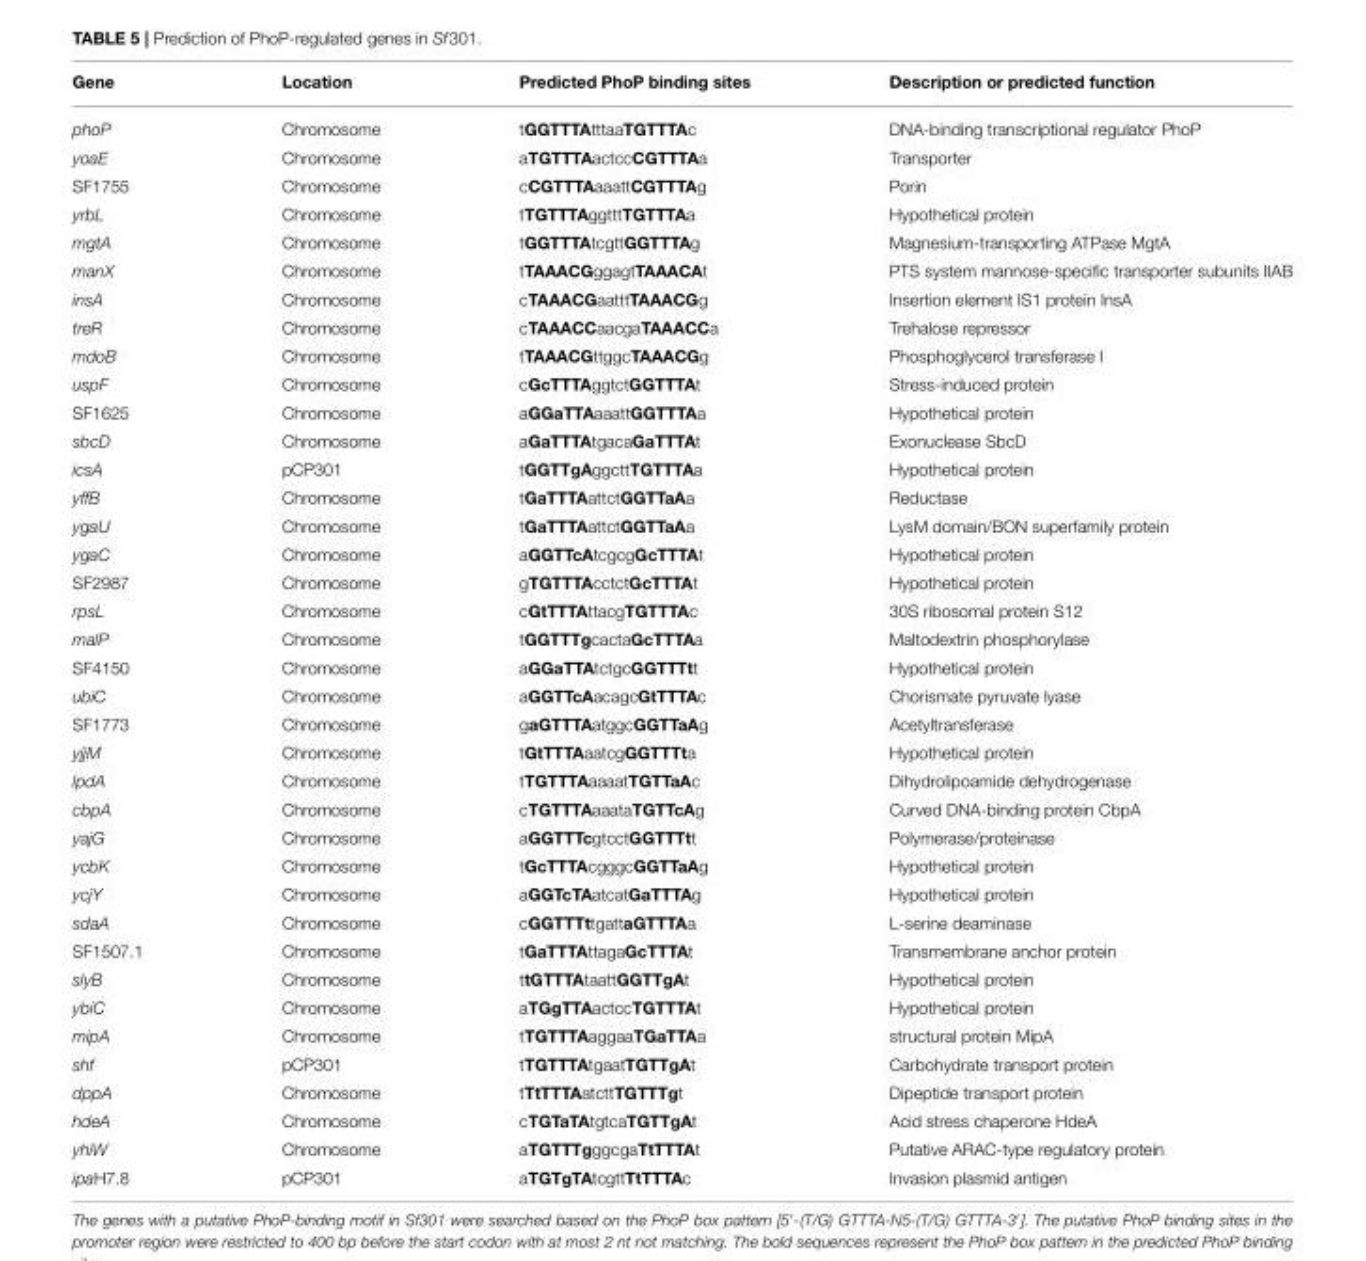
<table><thead><tr><td>Gene</td><td>Location</td><td>Predicted PhoP binding sites</td><td>Description or predicted function</td></tr></thead><tbody><tr><td>phoP</td><td>Chromosome</td><td>tGGTTTAtttaaTGTTTAc</td><td>DNA-binding transcriptional regulator PhoP</td></tr><tr><td>yoaE</td><td>Chromosome</td><td>aTGTTTAactccCGTTTAa</td><td>Transporter</td></tr><tr><td>SF1755</td><td>Chromosome</td><td>cCGTTTAaaattCGTTTAg</td><td>Porin</td></tr><tr><td>yrbL</td><td>Chromosome</td><td>tTGTTTAggtttTGTTTAa</td><td>Hypothetical protein</td></tr><tr><td>mgtA</td><td>Chromosome</td><td>tGGTTTAtcgttGGTTTAg</td><td>Magnesium-transporting ATPase MgtA</td></tr><tr><td>manX</td><td>Chromosome</td><td>tTAAACGggagtTAAACAt</td><td>PTS system mannose-specific transporter subunits IIAB</td></tr><tr><td>insA</td><td>Chromosome</td><td>cTAAACGaatttTAAACGg</td><td>Insertion element IS1 protein InsA</td></tr><tr><td>treR</td><td>Chromosome</td><td>cTAAACCaacgaTAAACCa</td><td>Trehalose repressor</td></tr><tr><td>mdoB</td><td>Chromosome</td><td>tTAAACGttggcTAAACGg</td><td>Phosphoglycerol transferase I</td></tr><tr><td>uspF</td><td>Chromosome</td><td>cGcTTTAggtctGGTTTAt</td><td>Stress-induced protein</td></tr><tr><td>SF1625</td><td>Chromosome</td><td>aGGaTTAaaattGGTTTAa</td><td>Hypothetical protein</td></tr><tr><td>sbcD</td><td>Chromosome</td><td>aGaTTTAtgacaGaTTTAt</td><td>Exonuclease SbcD</td></tr><tr><td>icsA</td><td>pCP301</td><td>tGGTTgAggcttTGTTTAa</td><td>Hypothetical protein</td></tr><tr><td>yffB</td><td>Chromosome</td><td>tGaTTTAattctGGTTaAa</td><td>Reductase</td></tr><tr><td>ygaU</td><td>Chromosome</td><td>tGaTTTAattctGGTTaAa</td><td>LysM domain/BON superfamily protein</td></tr><tr><td>ygaC</td><td>Chromosome</td><td>aGGTTcAtcgcgGcTTTAt</td><td>Hypothetical protein</td></tr><tr><td>SF2987</td><td>Chromosome</td><td>gTGTTTAcctctGcTTTAt</td><td>Hypothetical protein</td></tr><tr><td>rpsL</td><td>Chromosome</td><td>cGtTTTAttacgTGTTTAc</td><td>30S ribosomal protein S12</td></tr><tr><td>malP</td><td>Chromosome</td><td>tGGTTTgcactaGcTTTAa</td><td>Maltodextrin phosphorylase</td></tr><tr><td>SF4150</td><td>Chromosome</td><td>aGGaTTAtctgcGGTTTtt</td><td>Hypothetical protein</td></tr><tr><td>ubiC</td><td>Chromosome</td><td>aGGTTcAacagcGtTTTAc</td><td>Chorismate pyruvate lyase</td></tr><tr><td>SF1773</td><td>Chromosome</td><td>gaGTTTAatggcGGTTaAg</td><td>Acetyltransferase</td></tr><tr><td>yjjM</td><td>Chromosome</td><td>tGtTTTAaatcgGGTTTta</td><td>Hypothetical protein</td></tr><tr><td>lpdA</td><td>Chromosome</td><td>tTGTTTAaaaatTGTTaAc</td><td>Dihydrolipoamide dehydrogenase</td></tr><tr><td>cbpA</td><td>Chromosome</td><td>cTGTTTAaaataTGTTcAg</td><td>Curved DNA-binding protein CbpA</td></tr><tr><td>yajG</td><td>Chromosome</td><td>aGGTTTcgtcctGGTTTtt</td><td>Polymerase/proteinase</td></tr><tr><td>ycbK</td><td>Chromosome</td><td>tGcTTTAcgggcGGTTaAg</td><td>Hypothetical protein</td></tr><tr><td>ycjY</td><td>Chromosome</td><td>aGGTcTAatcatGaTTTAg</td><td>Hypothetical protein</td></tr><tr><td>sdaA</td><td>Chromosome</td><td>cGGTTTttgattaGTTTAa</td><td>L-serine deaminase</td></tr><tr><td>SF1507.1</td><td>Chromosome</td><td>tGaTTTAttagaGcTTTAt</td><td>Transmembrane anchor protein</td></tr><tr><td>slyB</td><td>Chromosome</td><td>ttGTTTAtaattGGTTgAt</td><td>Hypothetical protein</td></tr><tr><td>ybiC</td><td>Chromosome</td><td>aTGgTTAactccTGTTTAt</td><td>Hypothetical protein</td></tr><tr><td>mipA</td><td>Chromosome</td><td>tTGTTTAaggaaTGaTTAa</td><td>structural protein MipA</td></tr><tr><td>shf</td><td>pCP301</td><td>tTGTTTAtgaatTGTTgAt</td><td>Carbohydrate transport protein</td></tr><tr><td>dppA</td><td>Chromosome</td><td>tTtTTTAatcttTGTTTgt</td><td>Dipeptide transport protein</td></tr><tr><td>hdeA</td><td>Chromosome</td><td>cTGTaTAtgtcaTGTTgAt</td><td>Acid stress chaperone HdeA</td></tr><tr><td>yhiW</td><td>Chromosome</td><td>aTGTTTgggcgaTtTTTAt</td><td>Putative ARAC-type regulatory protein</td></tr><tr><td>ipaH7.8</td><td>pCP301</td><td>aTGTgTAtcgttTtTTTAc</td><td>Invasion plasmid antigen</td></tr></tbody></table>